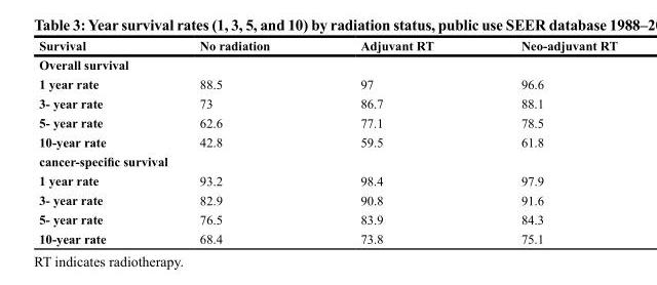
<table><thead><tr><td>Survival</td><td>No radiation</td><td>Adjuvant RT</td><td>Neo-adjuvant RT</td></tr></thead><tbody><tr><td colspan="4">Overall survival</td></tr><tr><td>1 year rate</td><td>88.5</td><td>97</td><td>96.6</td></tr><tr><td>3- year rate</td><td>73</td><td>86.7</td><td>88.1</td></tr><tr><td>5- year rate</td><td>62.6</td><td>77.1</td><td>78.5</td></tr><tr><td>10-year rate</td><td>42.8</td><td>59.5</td><td>61.8</td></tr><tr><td colspan="4">cancer-specific survival</td></tr><tr><td>1 year rate</td><td>93.2</td><td>98.4</td><td>97.9</td></tr><tr><td>3- year rate</td><td>82.9</td><td>90.8</td><td>91.6</td></tr><tr><td>5- year rate</td><td>76.5</td><td>83.9</td><td>84.3</td></tr><tr><td>10-year rate</td><td>68.4</td><td>73.8</td><td>75.1</td></tr></tbody></table>